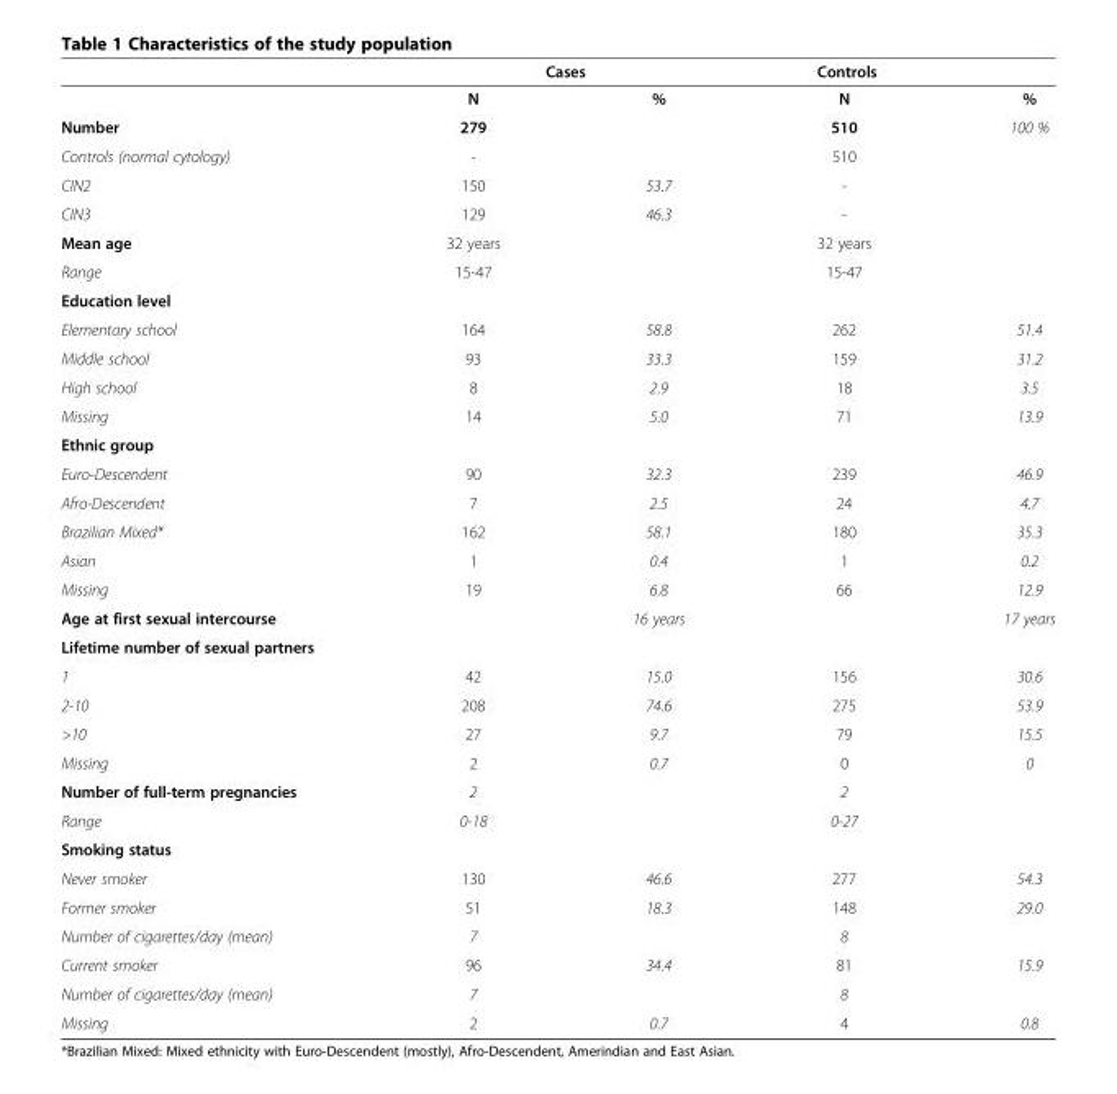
<table><thead><tr><td rowspan="2"></td><td colspan="2">Cases</td><td rowspan="2">Controls N</td><td rowspan="2">%</td></tr><tr><td>N</td><td>%</td></tr></thead><tbody><tr><td>Number</td><td>279</td><td></td><td>510</td><td>100 %</td></tr><tr><td>Controls (normal cytology)</td><td>-</td><td></td><td>510</td><td></td></tr><tr><td>CIN2</td><td>150</td><td>53.7</td><td>-</td><td></td></tr><tr><td>CIN3</td><td>129</td><td>46.3</td><td>-</td><td></td></tr><tr><td>Mean age</td><td>32 years</td><td></td><td>32 years</td><td></td></tr><tr><td>Range</td><td>15-47</td><td></td><td>15-47</td><td></td></tr><tr><td colspan="5">Education level</td></tr><tr><td>Elementary school</td><td>164</td><td>58.8</td><td>262</td><td>51.4</td></tr><tr><td>Middle school</td><td>93</td><td>33.3</td><td>159</td><td>31.2</td></tr><tr><td>High school</td><td>8</td><td>2.9</td><td>18</td><td>3.5</td></tr><tr><td>Missing</td><td>14</td><td>5.0</td><td>71</td><td>13.9</td></tr><tr><td colspan="5">Ethnic group</td></tr><tr><td>Euro-Descendent</td><td>90</td><td>32.3</td><td>239</td><td>46.9</td></tr><tr><td>Afro-Descendent</td><td>7</td><td>2.5</td><td>24</td><td>4.7</td></tr><tr><td>Brazilian Mixed*</td><td>162</td><td>58.1</td><td>180</td><td>35.3</td></tr><tr><td>Asian</td><td>1</td><td>0.4</td><td>1</td><td>0.2</td></tr><tr><td>Missing</td><td>19</td><td>6.8</td><td>66</td><td>12.9</td></tr><tr><td>Age at first sexual intercourse</td><td></td><td>16 years</td><td></td><td>17 years</td></tr><tr><td colspan="5">Lifetime number of sexual partners</td></tr><tr><td>1</td><td>42</td><td>15.0</td><td>156</td><td>30.6</td></tr><tr><td>2-10</td><td>208</td><td>74.6</td><td>275</td><td>53.9</td></tr><tr><td>&gt;10</td><td>27</td><td>9.7</td><td>79</td><td>15.5</td></tr><tr><td>Missing</td><td>2</td><td>0.7</td><td>0</td><td>0</td></tr><tr><td>Number of full-term pregnancies</td><td>2</td><td></td><td>2</td><td></td></tr><tr><td>Range</td><td>0-18</td><td></td><td>0-27</td><td></td></tr><tr><td colspan="5">Smoking status</td></tr><tr><td>Never smoker</td><td>130</td><td>46.6</td><td>277</td><td>54.3</td></tr><tr><td>Former smoker</td><td>51</td><td>18.3</td><td>148</td><td>29.0</td></tr><tr><td>Number of cigarettes/day (mean)</td><td>7</td><td></td><td>8</td><td></td></tr><tr><td>Current smoker</td><td>96</td><td>34.4</td><td>81</td><td>15.9</td></tr><tr><td>Number of cigarettes/day (mean)</td><td>7</td><td></td><td>8</td><td></td></tr><tr><td>Missing</td><td>2</td><td>0.7</td><td>4</td><td>0.8</td></tr></tbody></table>